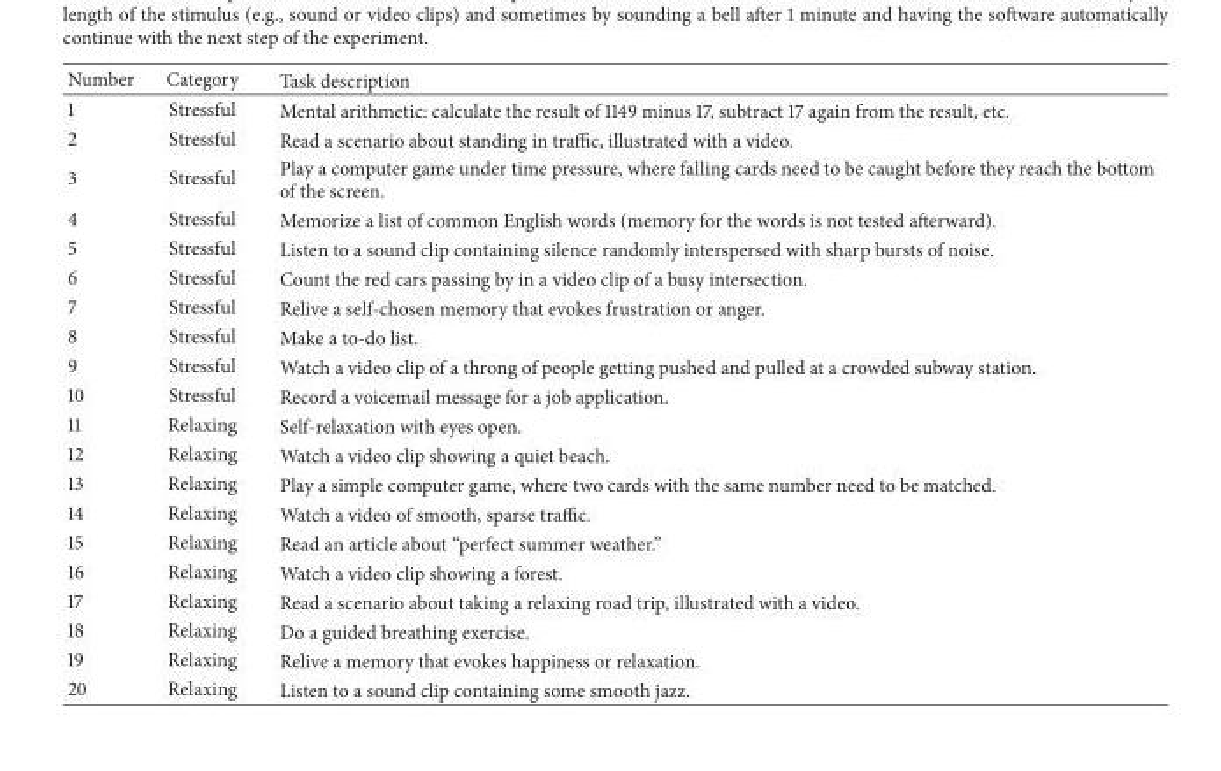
<table><thead><tr><td>Number</td><td>Category</td><td>Task description</td></tr></thead><tbody><tr><td>1</td><td>Stressful</td><td>Mental arithmetic: calculate the result of 1149 minus 17, subtract 17 again from the result, etc.</td></tr><tr><td>2</td><td>Stressful</td><td>Read a scenario about standing in traffic, illustrated with a video.</td></tr><tr><td>3</td><td>Stressful</td><td>Play a computer game under time pressure, where falling cards need to be caught before they reach the bottom of the screen.</td></tr><tr><td>4</td><td>Stressful</td><td>Memorize a list of common English words (memory for the words is not tested afterward).</td></tr><tr><td>5</td><td>Stressful</td><td>Listen to a sound clip containing silence randomly interspersed with sharp bursts of noise.</td></tr><tr><td>6</td><td>Stressful</td><td>Count the red cars passing by in a video clip of a busy intersection.</td></tr><tr><td>7</td><td>Stressful</td><td>Relive a self-chosen memory that evokes frustration or anger.</td></tr><tr><td>8</td><td>Stressful</td><td>Make a to-do list.</td></tr><tr><td>9</td><td>Stressful</td><td>Watch a video clip of a throng of people getting pushed and pulled at a crowded subway station.</td></tr><tr><td>10</td><td>Stressful</td><td>Record a voicemail message for a job application.</td></tr><tr><td>11</td><td>Relaxing</td><td>Self-relaxation with eyes open.</td></tr><tr><td>12</td><td>Relaxing</td><td>Watch a video clip showing a quiet beach.</td></tr><tr><td>13</td><td>Relaxing</td><td>Play a simple computer game, where two cards with the same number need to be matched.</td></tr><tr><td>14</td><td>Relaxing</td><td>Watch a video of smooth, sparse traffic.</td></tr><tr><td>15</td><td>Relaxing</td><td>Read an article about “perfect summer weather.”</td></tr><tr><td>16</td><td>Relaxing</td><td>Watch a video clip showing a forest.</td></tr><tr><td>17</td><td>Relaxing</td><td>Read a scenario about taking a relaxing road trip, illustrated with a video.</td></tr><tr><td>18</td><td>Relaxing</td><td>Do a guided breathing exercise.</td></tr><tr><td>19</td><td>Relaxing</td><td>Relive a memory that evokes happiness or relaxation.</td></tr><tr><td>20</td><td>Relaxing</td><td>Listen to a sound clip containing some smooth jazz.</td></tr></tbody></table>